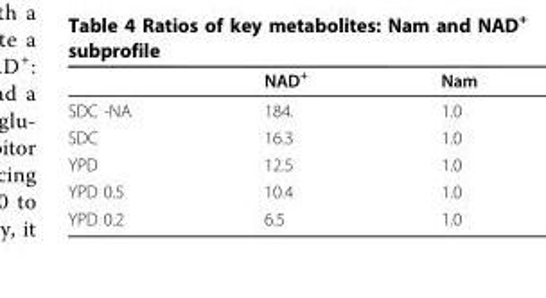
<table><thead><tr><td></td><td>NAD<sup>+</sup></td><td>Nam</td></tr></thead><tbody><tr><td>SDC -NA</td><td>184.</td><td>1.0</td></tr><tr><td>SDC</td><td>16.3</td><td>1.0</td></tr><tr><td>YPD</td><td>12.5</td><td>1.0</td></tr><tr><td>YPD 0.5</td><td>10.4</td><td>1.0</td></tr><tr><td>YPD 0.2</td><td>6.5</td><td>1.0</td></tr></tbody></table>